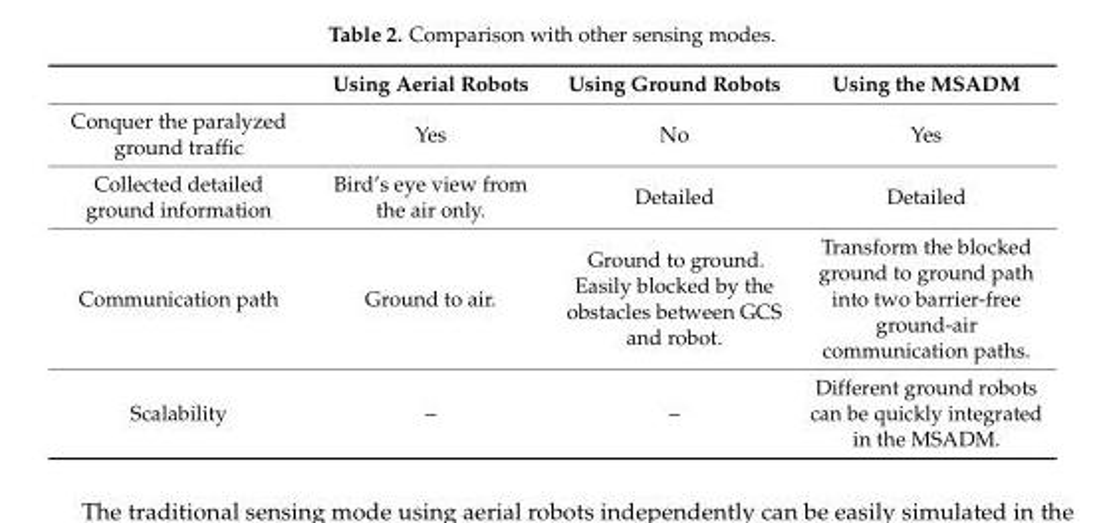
<table><thead><tr><td></td><td>Using Aerial Robots</td><td>Using Ground Robots</td><td>Using the MSADM</td></tr></thead><tbody><tr><td>Conquer the paralyzed ground traffic</td><td>Yes</td><td>No</td><td>Yes</td></tr><tr><td>Collected detailed ground information</td><td>Bird’s eye view from the air only.</td><td>Detailed</td><td>Detailed</td></tr><tr><td>Communication path</td><td>Ground to air.</td><td>Ground to ground. Easily blocked by the obstacles between GCS and robot.</td><td>Transform the blocked ground to ground path into two barrier-free ground-air communication paths.</td></tr><tr><td>Scalability</td><td>–</td><td>–</td><td>Different ground robots can be quickly integrated in the MSADM.</td></tr></tbody></table>